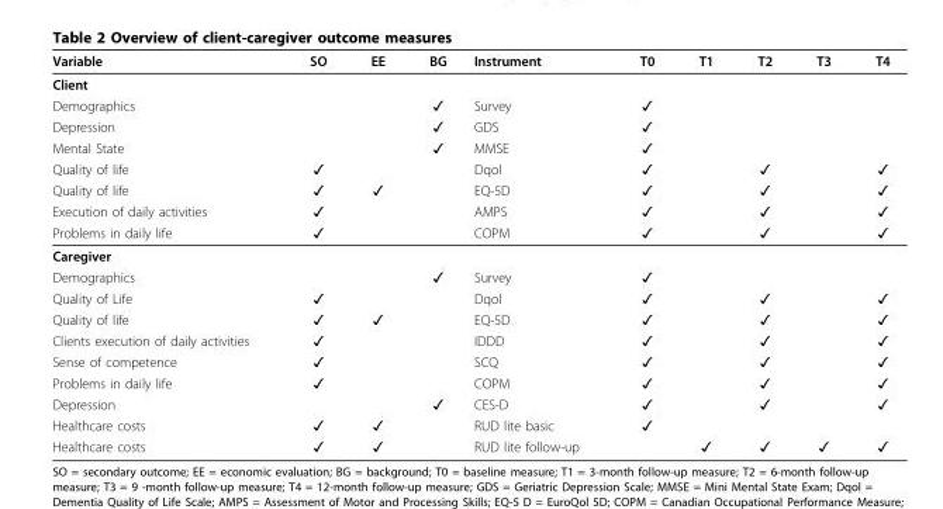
<table><thead><tr><td>Variable</td><td>SO</td><td>EE</td><td>BG</td><td>Instrument</td><td>T0</td><td>T1</td><td>T2</td><td>T3</td><td>T4</td></tr></thead><tbody><tr><td colspan="10">Client</td></tr><tr><td>Demographics</td><td></td><td></td><td>✓</td><td>Survey</td><td>✓</td><td></td><td></td><td></td><td></td></tr><tr><td>Depression</td><td></td><td></td><td>✓</td><td>GDS</td><td>✓</td><td></td><td></td><td></td><td></td></tr><tr><td>Mental State</td><td></td><td></td><td>✓</td><td>MMSE</td><td>✓</td><td></td><td></td><td></td><td></td></tr><tr><td>Quality of life</td><td>✓</td><td></td><td></td><td>Dqol</td><td>✓</td><td></td><td>✓</td><td></td><td>✓</td></tr><tr><td>Quality of life</td><td>✓</td><td>✓</td><td></td><td>EQ-5D</td><td>✓</td><td></td><td>✓</td><td></td><td>✓</td></tr><tr><td>Execution of daily activities</td><td>✓</td><td></td><td></td><td>AMPS</td><td>✓</td><td></td><td>✓</td><td></td><td>✓</td></tr><tr><td>Problems in daily life</td><td>✓</td><td></td><td></td><td>COPM</td><td>✓</td><td></td><td>✓</td><td></td><td>✓</td></tr><tr><td colspan="10">Caregiver</td></tr><tr><td>Demographics</td><td></td><td></td><td>✓</td><td>Survey</td><td>✓</td><td></td><td></td><td></td><td></td></tr><tr><td>Quality of Life</td><td>✓</td><td></td><td></td><td>Dqol</td><td>✓</td><td></td><td>✓</td><td></td><td>✓</td></tr><tr><td>Quality of life</td><td>✓</td><td>✓</td><td></td><td>EQ-5D</td><td>✓</td><td></td><td>✓</td><td></td><td>✓</td></tr><tr><td>Clients execution of daily activities</td><td>✓</td><td></td><td></td><td>IDDD</td><td>✓</td><td></td><td>✓</td><td></td><td>✓</td></tr><tr><td>Sense of competence</td><td>✓</td><td></td><td></td><td>SCQ</td><td>✓</td><td></td><td>✓</td><td></td><td>✓</td></tr><tr><td>Problems in daily life</td><td>✓</td><td></td><td></td><td>COPM</td><td>✓</td><td></td><td>✓</td><td></td><td>✓</td></tr><tr><td>Depression</td><td></td><td></td><td>✓</td><td>CES-D</td><td>✓</td><td></td><td>✓</td><td></td><td>✓</td></tr><tr><td>Healthcare costs</td><td>✓</td><td>✓</td><td></td><td>RUD lite basic</td><td>✓</td><td></td><td></td><td></td><td></td></tr><tr><td>Healthcare costs</td><td>✓</td><td>✓</td><td></td><td>RUD lite follow-up</td><td></td><td>✓</td><td>✓</td><td>✓</td><td>✓</td></tr></tbody></table>